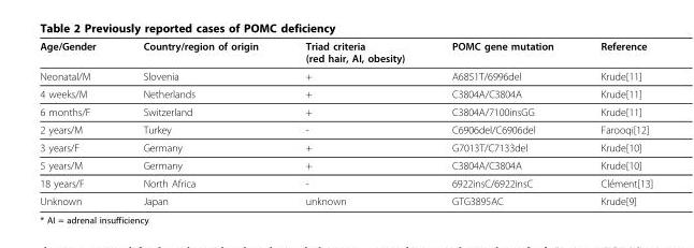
<table><thead><tr><td>Age/Gender</td><td>Country/region of origin</td><td>Triad criteria (red hair, AI, obesity)</td><td>POMC gene mutation</td><td>Reference</td></tr></thead><tbody><tr><td>Neonatal/M</td><td>Slovenia</td><td>+</td><td>A6851T/6996del</td><td>Krude[11]</td></tr><tr><td>4 weeks/M</td><td>Netherlands</td><td>+</td><td>C3804A/C3804A</td><td>Krude[11]</td></tr><tr><td>6 months/F</td><td>Switzerland</td><td>+</td><td>C3804A/7100insGG</td><td>Krude[11]</td></tr><tr><td>2 years/M</td><td>Turkey</td><td>-</td><td>C6906del/C6906del</td><td>Farooqi[12]</td></tr><tr><td>3 years/F</td><td>Germany</td><td>+</td><td>G7013T/C7133del</td><td>Krude[10]</td></tr><tr><td>5 years/M</td><td>Germany</td><td>+</td><td>C3804A/C3804A</td><td>Krude[10]</td></tr><tr><td>18 years/F</td><td>North Africa</td><td>-</td><td>6922insC/6922insC</td><td>Clément[13]</td></tr><tr><td>Unknown</td><td>Japan</td><td>unknown</td><td>GTG3895AC</td><td>Krude[9]</td></tr></tbody></table>